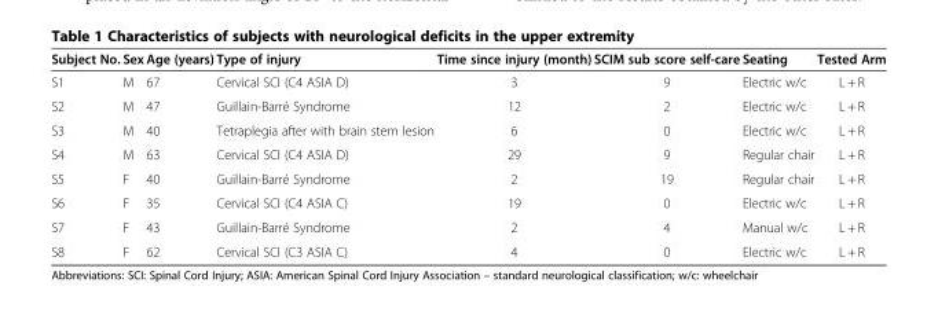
<table><thead><tr><td>Subject No.</td><td>Sex</td><td>Age (years)</td><td>Type of injury</td><td>Time since injury (month)</td><td>SCIM sub score self-care</td><td>Seating</td><td>Tested Arm</td></tr></thead><tbody><tr><td>S1</td><td>M</td><td>67</td><td>Cervical SCI (C4 ASIA D)</td><td>3</td><td>9</td><td>Electric w/c</td><td>L + R</td></tr><tr><td>S2</td><td>M</td><td>47</td><td>Guillain-Barré Syndrome</td><td>12</td><td>2</td><td>Electric w/c</td><td>L + R</td></tr><tr><td>S3</td><td>M</td><td>40</td><td>Tetraplegia after with brain stem lesion</td><td>6</td><td>0</td><td>Electric w/c</td><td>L + R</td></tr><tr><td>S4</td><td>M</td><td>63</td><td>Cervical SCI (C4 ASIA D)</td><td>29</td><td>9</td><td>Regular chair</td><td>L + R</td></tr><tr><td>S5</td><td>F</td><td>40</td><td>Guillain-Barré Syndrome</td><td>2</td><td>19</td><td>Regular chair</td><td>L + R</td></tr><tr><td>S6</td><td>F</td><td>35</td><td>Cervical SCI (C4 ASIA C)</td><td>19</td><td>0</td><td>Electric w/c</td><td>L + R</td></tr><tr><td>S7</td><td>F</td><td>43</td><td>Guillain-Barré Syndrome</td><td>2</td><td>4</td><td>Manual w/c</td><td>L + R</td></tr><tr><td>S8</td><td>F</td><td>62</td><td>Cervical SCI (C3 ASIA C)</td><td>4</td><td>0</td><td>Electric w/c</td><td>L + R</td></tr></tbody></table>